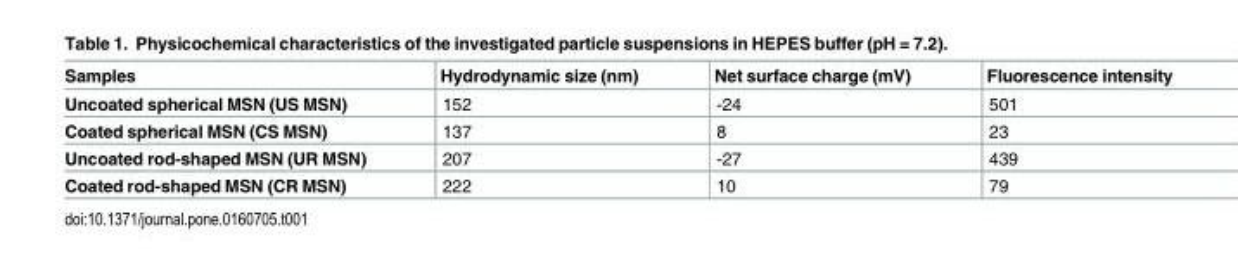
<table><thead><tr><td>Samples</td><td>Hydrodynamic size (nm)</td><td>Net surface charge (mV)</td><td>Fluorescence intensity</td></tr></thead><tbody><tr><td>Uncoated spherical MSN (US MSN)</td><td>152</td><td>-24</td><td>501</td></tr><tr><td>Coated spherical MSN (CS MSN)</td><td>137</td><td>8</td><td>23</td></tr><tr><td>Uncoated rod-shaped MSN (UR MSN)</td><td>207</td><td>-27</td><td>439</td></tr><tr><td>Coated rod-shaped MSN (CR MSN)</td><td>222</td><td>10</td><td>79</td></tr></tbody></table>